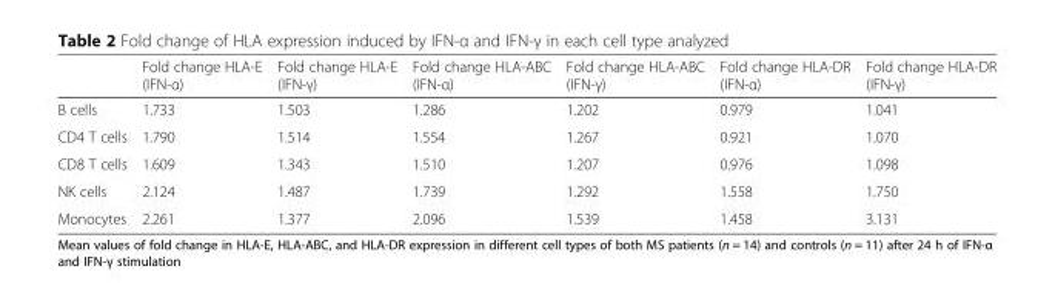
<table><thead><tr><td></td><td>Fold change HLA-E (IFN-α)</td><td>Fold change HLA-E (IFN-γ)</td><td>Fold change HLA-ABC (IFN-α)</td><td>Fold change HLA-ABC (IFN-γ)</td><td>Fold change HLA-DR (IFN-α)</td><td>Fold change HLA-DR (IFN-γ)</td></tr></thead><tbody><tr><td>B cells</td><td>1.733</td><td>1.503</td><td>1.286</td><td>1.202</td><td>0.979</td><td>1.041</td></tr><tr><td>CD4 T cells</td><td>1.790</td><td>1.514</td><td>1.554</td><td>1.267</td><td>0.921</td><td>1.070</td></tr><tr><td>CD8 T cells</td><td>1.609</td><td>1.343</td><td>1.510</td><td>1.207</td><td>0.976</td><td>1.098</td></tr><tr><td>NK cells</td><td>2.124</td><td>1.487</td><td>1.739</td><td>1.292</td><td>1.558</td><td>1.750</td></tr><tr><td>Monocytes</td><td>2.261</td><td>1.377</td><td>2.096</td><td>1.539</td><td>1.458</td><td>3.131</td></tr></tbody></table>